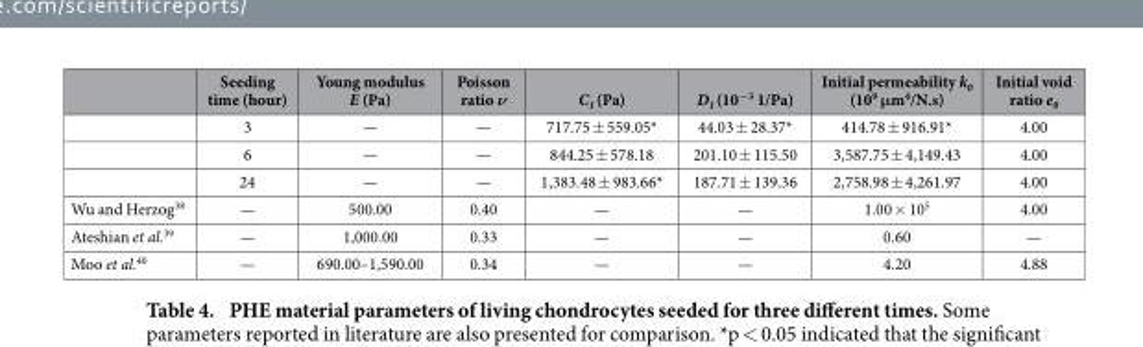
<table><thead><tr><td></td><td>Seeding time (hour)</td><td>Young modulus E (Pa)</td><td>Poisson ratio ν</td><td>C<sub>1</sub> (Pa)</td><td>D<sub>1</sub> (10<sup>−3</sup> 1/Pa)</td><td>Initial permeability k<sub>0</sub> (10<sup>9</sup> μm<sup>4</sup>/N.s)</td><td>Initial void ratio e<sub>0</sub></td></tr></thead><tbody><tr><td></td><td>3</td><td>—</td><td>—</td><td>717.75 ± 559.05*</td><td>44.03 ± 28.37*</td><td>414.78 ± 916.91*</td><td>4.00</td></tr><tr><td></td><td>6</td><td>—</td><td>—</td><td>844.25 ± 578.18</td><td>201.10 ± 115.50</td><td>3,587.75 ± 4,149.43</td><td>4.00</td></tr><tr><td></td><td>24</td><td>—</td><td>—</td><td>1,383.48 ± 983.66*</td><td>187.71 ± 139.36</td><td>2,758.98 ± 4,261.97</td><td>4.00</td></tr><tr><td>Wu and Herzog<sup>38</sup></td><td>—</td><td>500.00</td><td>0.40</td><td>—</td><td>—</td><td>1.00 × 10<sup>5</sup></td><td>4.00</td></tr><tr><td>Ateshian et al.<sup>39</sup></td><td>—</td><td>1,000.00</td><td>0.33</td><td>—</td><td>—</td><td>0.60</td><td>—</td></tr><tr><td>Moo et al.<sup>40</sup></td><td>—</td><td>690.00–1,590.00</td><td>0.34</td><td>—</td><td>—</td><td>4.20</td><td>4.88</td></tr></tbody></table>